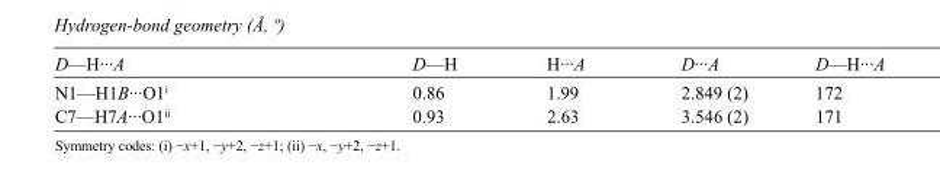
<table><tbody><tr><td>D—H···A</td><td>D—H</td><td>H···A</td><td>D···A</td><td>D—H···A</td></tr><tr><td>N1—H1B···O1<sup>i</sup></td><td>0.86</td><td>1.99</td><td>2.849 (2)</td><td>172</td></tr><tr><td>C7—H7A···O1<sup>ii</sup></td><td>0.93</td><td>2.63</td><td>3.546 (2)</td><td>171</td></tr></tbody></table>